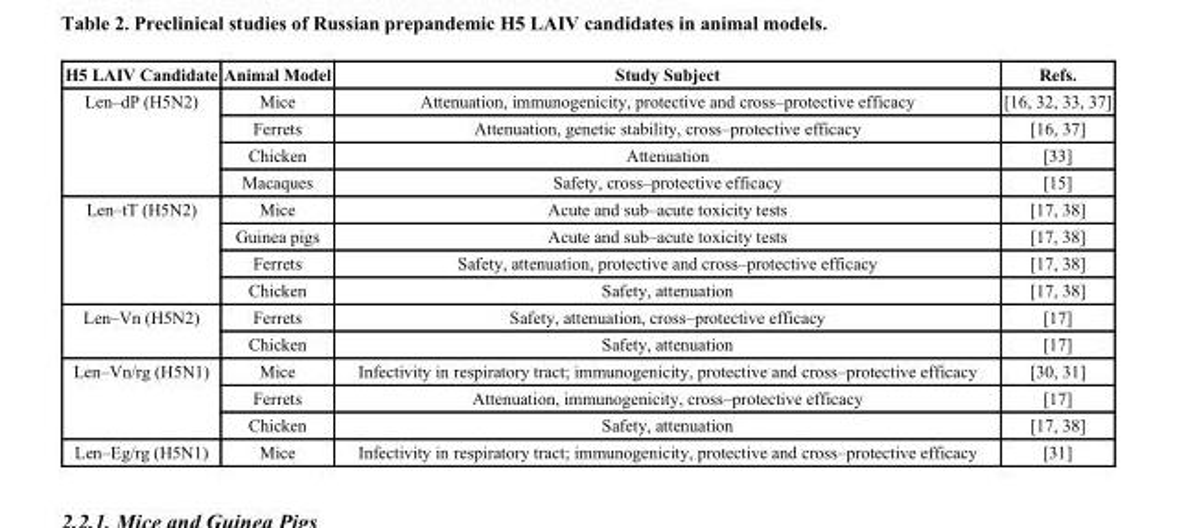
<table><thead><tr><td>H5 LAIV Candidate</td><td>Animal Model</td><td>Study Subject</td><td>Refs.</td></tr></thead><tbody><tr><td rowspan="4">Len–dP (H5N2)</td><td>Mice</td><td>Attenuation, immunogenicity, protective and cross–protective efficacy</td><td>[16, 32, 33, 37]</td></tr><tr><td>Ferrets</td><td>Attenuation, genetic stability, cross–protective efficacy</td><td>[16, 37]</td></tr><tr><td>Chicken</td><td>Attenuation</td><td>[33]</td></tr><tr><td>Macaques</td><td>Safety, cross–protective efficacy</td><td>[15]</td></tr><tr><td rowspan="4">Len–tT (H5N2)</td><td>Mice</td><td>Acute and sub–acute toxicity tests</td><td>[17, 38]</td></tr><tr><td>Guinea pigs</td><td>Acute and sub–acute toxicity tests</td><td>[17, 38]</td></tr><tr><td>Ferrets</td><td>Safety, attenuation, protective and cross–protective efficacy</td><td>[17, 38]</td></tr><tr><td>Chicken</td><td>Safety, attenuation</td><td>[17, 38]</td></tr><tr><td rowspan="2">Len–Vn (H5N2)</td><td>Ferrets</td><td>Safety, attenuation, cross–protective efficacy</td><td>[17]</td></tr><tr><td>Chicken</td><td>Safety, attenuation</td><td>[17]</td></tr><tr><td rowspan="3">Len–Vn/rg (H5N1)</td><td>Mice</td><td>Infectivity in respiratory tract; immunogenicity, protective and cross–protective efficacy</td><td>[30, 31]</td></tr><tr><td>Ferrets</td><td>Attenuation, immunogenicity, cross–protective efficacy</td><td>[17]</td></tr><tr><td>Chicken</td><td>Safety, attenuation</td><td>[17, 38]</td></tr><tr><td>Len–Eg/rg (H5N1)</td><td>Mice</td><td>Infectivity in respiratory tract; immunogenicity, protective and cross–protective efficacy</td><td>[31]</td></tr></tbody></table>